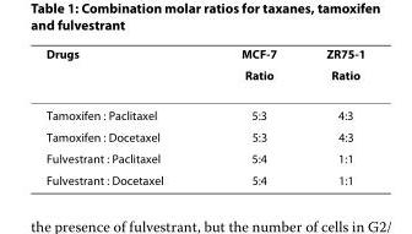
<table><thead><tr><td rowspan="2">Drugs</td><td rowspan="2">MCF-7 Ratio</td><td rowspan="2">ZR75-1 Ratio</td></tr><tr></tr></thead><tbody><tr><td>Tamoxifen : Paclitaxel</td><td>5:3</td><td>4:3</td></tr><tr><td>Tamoxifen : Docetaxel</td><td>5:3</td><td>4:3</td></tr><tr><td>Fulvestrant : Paclitaxel</td><td>5:4</td><td>1:1</td></tr><tr><td>Fulvestrant : Docetaxel</td><td>5:4</td><td>1:1</td></tr></tbody></table>